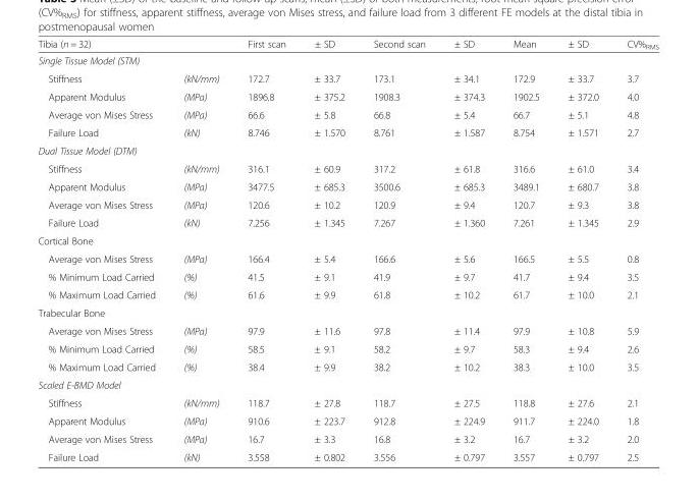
<table><thead><tr><td colspan="2">Tibia (n = 32)</td><td>First scan</td><td>± SD</td><td>Second scan</td><td>± SD</td><td>Mean</td><td>± SD</td><td>CV%<sub>RMS</sub></td></tr><tr><td colspan="9">Single Tissue Model (STM)</td></tr><tr><td>Stiffness</td><td>(kN/mm)</td><td>172.7</td><td>± 33.7</td><td>173.1</td><td>± 34.1</td><td>172.9</td><td>± 33.7</td><td>3.7</td></tr></thead><tbody><tr><td>Apparent Modulus</td><td>(MPa)</td><td>1896.8</td><td>± 375.2</td><td>1908.3</td><td>± 374.3</td><td>1902.5</td><td>± 372.0</td><td>4.0</td></tr><tr><td>Average von Mises Stress</td><td>(MPa)</td><td>66.6</td><td>± 5.8</td><td>66.8</td><td>± 5.4</td><td>66.7</td><td>± 5.1</td><td>4.8</td></tr><tr><td>Failure Load</td><td>(kN)</td><td>8.746</td><td>± 1.570</td><td>8.761</td><td>± 1.587</td><td>8.754</td><td>± 1.571</td><td>2.7</td></tr><tr><td colspan="9">Dual Tissue Model (DTM)</td></tr><tr><td>Stiffness</td><td>(kN/mm)</td><td>316.1</td><td>± 60.9</td><td>317.2</td><td>± 61.8</td><td>316.6</td><td>± 61.0</td><td>3.4</td></tr><tr><td>Apparent Modulus</td><td>(MPa)</td><td>3477.5</td><td>± 685.3</td><td>3500.6</td><td>± 685.3</td><td>3489.1</td><td>± 680.7</td><td>3.8</td></tr><tr><td>Average von Mises Stress</td><td>(MPa)</td><td>120.6</td><td>± 10.2</td><td>120.9</td><td>± 9.4</td><td>120.7</td><td>± 9.3</td><td>3.8</td></tr><tr><td>Failure Load</td><td>(kN)</td><td>7.256</td><td>± 1.345</td><td>7.267</td><td>± 1.360</td><td>7.261</td><td>± 1.345</td><td>2.9</td></tr><tr><td colspan="9">Cortical Bone</td></tr><tr><td>Average von Mises Stress</td><td>(MPa)</td><td>166.4</td><td>± 5.4</td><td>166.6</td><td>± 5.6</td><td>166.5</td><td>± 5.5</td><td>0.8</td></tr><tr><td>% Minimum Load Carried</td><td>(%)</td><td>41.5</td><td>± 9.1</td><td>41.9</td><td>± 9.7</td><td>41.7</td><td>± 9.4</td><td>3.5</td></tr><tr><td>% Maximum Load Carried</td><td>(%)</td><td>61.6</td><td>± 9.9</td><td>61.8</td><td>± 10.2</td><td>61.7</td><td>± 10.0</td><td>2.1</td></tr><tr><td colspan="9">Trabecular Bone</td></tr><tr><td>Average von Mises Stress</td><td>(MPa)</td><td>97.9</td><td>± 11.6</td><td>97.8</td><td>± 11.4</td><td>97.9</td><td>± 10.8</td><td>5.9</td></tr><tr><td>% Minimum Load Carried</td><td>(%)</td><td>58.5</td><td>± 9.1</td><td>58.2</td><td>± 9.7</td><td>58.3</td><td>± 9.4</td><td>2.6</td></tr><tr><td>% Maximum Load Carried</td><td>(%)</td><td>38.4</td><td>± 9.9</td><td>38.2</td><td>± 10.2</td><td>38.3</td><td>± 10.0</td><td>3.5</td></tr><tr><td colspan="9">Scaled E-BMD Model</td></tr><tr><td>Stiffness</td><td>(kN/mm)</td><td>118.7</td><td>± 27.8</td><td>118.7</td><td>± 27.5</td><td>118.8</td><td>± 27.6</td><td>2.1</td></tr><tr><td>Apparent Modulus</td><td>(MPa)</td><td>910.6</td><td>± 223.7</td><td>912.8</td><td>± 224.9</td><td>911.7</td><td>± 224.0</td><td>1.8</td></tr><tr><td>Average von Mises Stress</td><td>(MPa)</td><td>16.7</td><td>± 3.3</td><td>16.8</td><td>± 3.2</td><td>16.7</td><td>± 3.2</td><td>2.0</td></tr><tr><td>Failure Load</td><td>(kN)</td><td>3.558</td><td>± 0.802</td><td>3.556</td><td>± 0.797</td><td>3.557</td><td>± 0.797</td><td>2.5</td></tr></tbody></table>